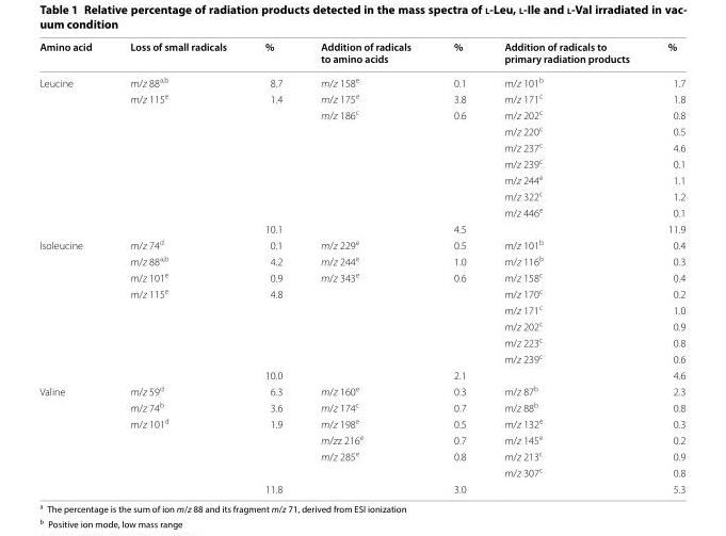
<table><thead><tr><td>Amino acid</td><td>Loss of small radicals</td><td>%</td><td>Addition of radicals to amino acids</td><td>%</td><td>Addition of radicals to primary radiation products</td><td>%</td></tr></thead><tbody><tr><td rowspan="10">Leucine</td><td>m/z 88<sup>a,b</sup></td><td>8.7</td><td>m/z 158<sup>e</sup></td><td>0.1</td><td>m/z 101<sup>b</sup></td><td>1.7</td></tr><tr><td>m/z 115<sup>e</sup></td><td>1.4</td><td>m/z 175<sup>e</sup></td><td>3.8</td><td>m/z 171<sup>c</sup></td><td>1.8</td></tr><tr><td></td><td></td><td>m/z 186<sup>c</sup></td><td>0.6</td><td>m/z 202<sup>c</sup></td><td>0.8</td></tr><tr><td></td><td></td><td></td><td></td><td>m/z 220<sup>c</sup></td><td>0.5</td></tr><tr><td></td><td></td><td></td><td></td><td>m/z 237<sup>c</sup></td><td>4.6</td></tr><tr><td></td><td></td><td></td><td></td><td>m/z 239<sup>c</sup></td><td>0.1</td></tr><tr><td></td><td></td><td></td><td></td><td>m/z 244<sup>e</sup></td><td>1.1</td></tr><tr><td></td><td></td><td></td><td></td><td>m/z 322<sup>c</sup></td><td>1.2</td></tr><tr><td></td><td></td><td></td><td></td><td>m/z 446<sup>e</sup></td><td>0.1</td></tr><tr><td></td><td>10.1</td><td></td><td>4.5</td><td></td><td>11.9</td></tr><tr><td rowspan="9">Isoleucine</td><td>m/z 74<sup>d</sup></td><td>0.1</td><td>m/z 229<sup>e</sup></td><td>0.5</td><td>m/z 101<sup>b</sup></td><td>0.4</td></tr><tr><td>m/z 88<sup>a,b</sup></td><td>4.2</td><td>m/z 244<sup>e</sup></td><td>1.0</td><td>m/z 116<sup>b</sup></td><td>0.3</td></tr><tr><td>m/z 101<sup>e</sup></td><td>0.9</td><td>m/z 343<sup>e</sup></td><td>0.6</td><td>m/z 158<sup>c</sup></td><td>0.4</td></tr><tr><td>m/z 115<sup>e</sup></td><td>4.8</td><td></td><td></td><td>m/z 170<sup>c</sup></td><td>0.2</td></tr><tr><td></td><td></td><td></td><td></td><td>m/z 171<sup>c</sup></td><td>1.0</td></tr><tr><td></td><td></td><td></td><td></td><td>m/z 202<sup>c</sup></td><td>0.9</td></tr><tr><td></td><td></td><td></td><td></td><td>m/z 223<sup>c</sup></td><td>0.8</td></tr><tr><td></td><td></td><td></td><td></td><td>m/z 239<sup>c</sup></td><td>0.6</td></tr><tr><td></td><td>10.0</td><td></td><td>2.1</td><td></td><td>4.6</td></tr><tr><td rowspan="7">Valine</td><td>m/z 59<sup>d</sup></td><td>6.3</td><td>m/z 160<sup>e</sup></td><td>0.3</td><td>m/z 87<sup>b</sup></td><td>2.3</td></tr><tr><td>m/z 74<sup>b</sup></td><td>3.6</td><td>m/z 174<sup>c</sup></td><td>0.7</td><td>m/z 88<sup>b</sup></td><td>0.8</td></tr><tr><td>m/z 101<sup>d</sup></td><td>1.9</td><td>m/z 198<sup>e</sup></td><td>0.5</td><td>m/z 132<sup>e</sup></td><td>0.3</td></tr><tr><td></td><td></td><td>m/zz 216<sup>e</sup></td><td>0.7</td><td>m/z 145<sup>e</sup></td><td>0.2</td></tr><tr><td></td><td></td><td>m/z 285<sup>e</sup></td><td>0.8</td><td>m/z 213<sup>c</sup></td><td>0.9</td></tr><tr><td></td><td></td><td></td><td></td><td>m/z 307<sup>c</sup></td><td>0.8</td></tr><tr><td></td><td>11.8</td><td></td><td>3.0</td><td></td><td>5.3</td></tr></tbody></table>